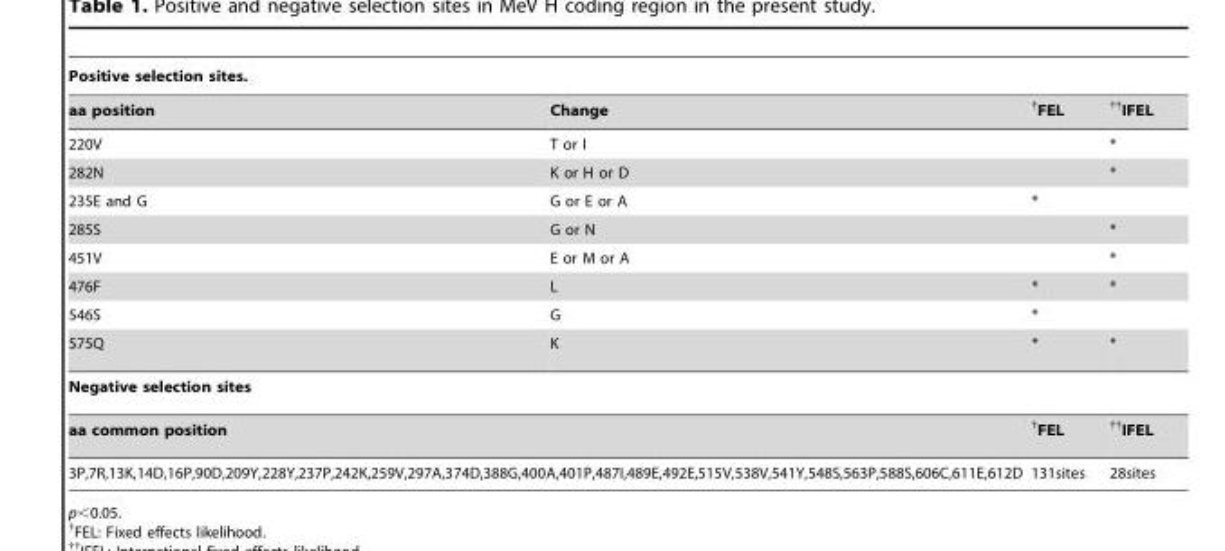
<table><thead><tr><td colspan="4">Positive selection sites.</td></tr><tr><td>aa position</td><td>Change</td><td>†FEL</td><td>††IFEL</td></tr></thead><tbody><tr><td>220V</td><td>T or I</td><td></td><td>*</td></tr><tr><td>282N</td><td>K or H or D</td><td></td><td>*</td></tr><tr><td>235E and G</td><td>G or E or A</td><td>*</td><td></td></tr><tr><td>285S</td><td>G or N</td><td></td><td>*</td></tr><tr><td>451V</td><td>E or M or A</td><td></td><td>*</td></tr><tr><td>476F</td><td>L</td><td>*</td><td>*</td></tr><tr><td>546S</td><td>G</td><td>*</td><td></td></tr><tr><td>575Q</td><td>K</td><td>*</td><td>*</td></tr><tr><td colspan="4">Negative selection sites</td></tr><tr><td colspan="2">aa common position</td><td>†FEL</td><td>††IFEL</td></tr><tr><td colspan="2">3P,7R,13K,14D,16P,90D,209Y,228Y,237P,242K,259V,297A,374D,388G,400A,401P,487I,489E,492E,515V,538V,541Y,548S,563P,588S,606C,611E,612D</td><td>131sites</td><td>28sites</td></tr></tbody></table>